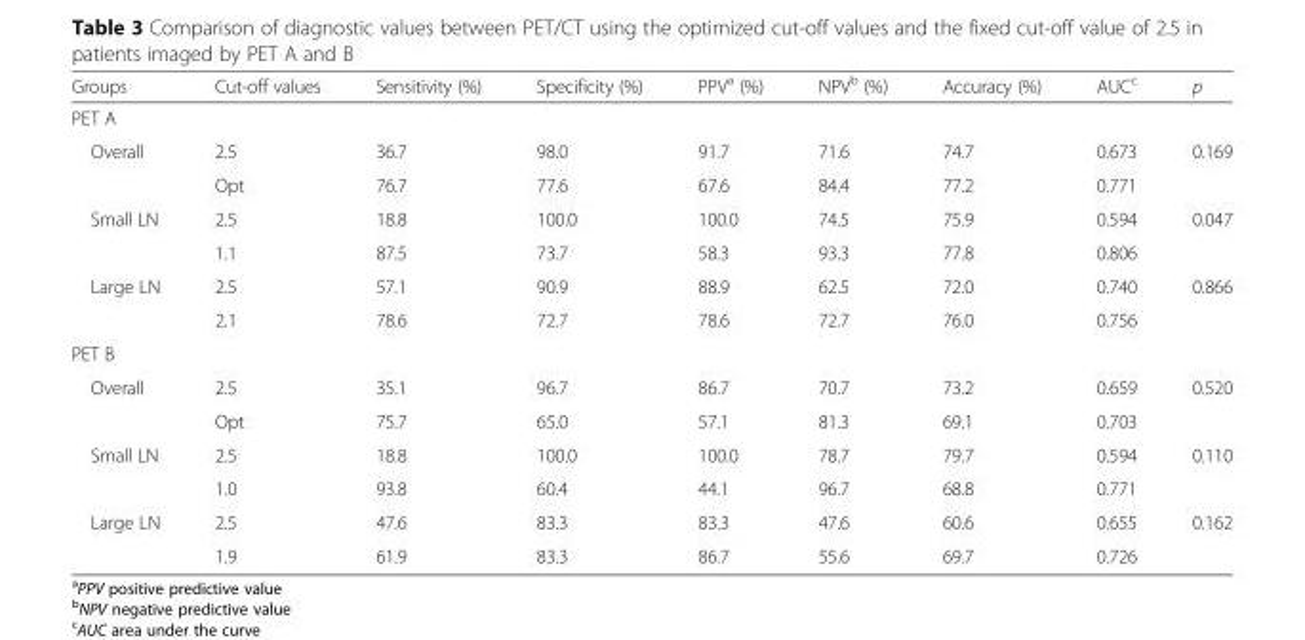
<table><thead><tr><td>Groups</td><td>Cut-off values</td><td>Sensitivity (%)</td><td>Specificity (%)</td><td>PPV<sup>a</sup> (%)</td><td>NPV<sup>b</sup> (%)</td><td>Accuracy (%)</td><td>AUC<sup>c</sup></td><td>p</td></tr></thead><tbody><tr><td colspan="9">PET A</td></tr><tr><td rowspan="2">Overall</td><td>2.5</td><td>36.7</td><td>98.0</td><td>91.7</td><td>71.6</td><td>74.7</td><td>0.673</td><td rowspan="2">0.169</td></tr><tr><td>Opt</td><td>76.7</td><td>77.6</td><td>67.6</td><td>84.4</td><td>77.2</td><td>0.771</td></tr><tr><td rowspan="2">Small LN</td><td>2.5</td><td>18.8</td><td>100.0</td><td>100.0</td><td>74.5</td><td>75.9</td><td>0.594</td><td rowspan="2">0.047</td></tr><tr><td>1.1</td><td>87.5</td><td>73.7</td><td>58.3</td><td>93.3</td><td>77.8</td><td>0.806</td></tr><tr><td rowspan="2">Large LN</td><td>2.5</td><td>57.1</td><td>90.9</td><td>88.9</td><td>62.5</td><td>72.0</td><td>0.740</td><td rowspan="2">0.866</td></tr><tr><td>2.1</td><td>78.6</td><td>72.7</td><td>78.6</td><td>72.7</td><td>76.0</td><td>0.756</td></tr><tr><td colspan="9">PET B</td></tr><tr><td rowspan="2">Overall</td><td>2.5</td><td>35.1</td><td>96.7</td><td>86.7</td><td>70.7</td><td>73.2</td><td>0.659</td><td rowspan="2">0.520</td></tr><tr><td>Opt</td><td>75.7</td><td>65.0</td><td>57.1</td><td>81.3</td><td>69.1</td><td>0.703</td></tr><tr><td rowspan="2">Small LN</td><td>2.5</td><td>18.8</td><td>100.0</td><td>100.0</td><td>78.7</td><td>79.7</td><td>0.594</td><td rowspan="2">0.110</td></tr><tr><td>1.0</td><td>93.8</td><td>60.4</td><td>44.1</td><td>96.7</td><td>68.8</td><td>0.771</td></tr><tr><td rowspan="2">Large LN</td><td>2.5</td><td>47.6</td><td>83.3</td><td>83.3</td><td>47.6</td><td>60.6</td><td>0.655</td><td rowspan="2">0.162</td></tr><tr><td>1.9</td><td>61.9</td><td>83.3</td><td>86.7</td><td>55.6</td><td>69.7</td><td>0.726</td></tr></tbody></table>